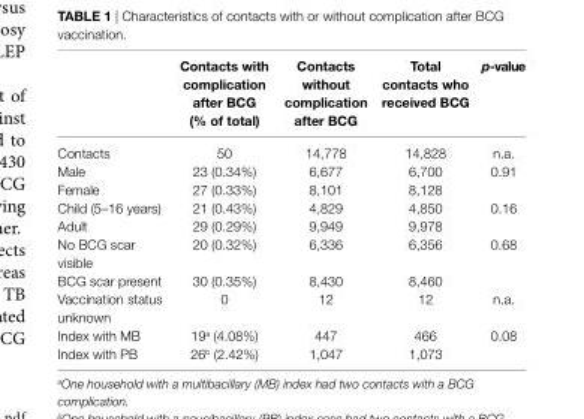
<table><thead><tr><td></td><td>Contacts with complication after BCG (% of total)</td><td>Contacts without complication after BCG</td><td>Total contacts who received BCG</td><td>p-value</td></tr></thead><tbody><tr><td>Contacts</td><td>50</td><td>14,778</td><td>14,828</td><td>n.a.</td></tr><tr><td>Male</td><td>23 (0.34%)</td><td>6,677</td><td>6,700</td><td rowspan="2">0.91</td></tr><tr><td>Female</td><td>27 (0.33%)</td><td>8,101</td><td>8,128</td></tr><tr><td>Child (5–16 years)</td><td>21 (0.43%)</td><td>4,829</td><td>4,850</td><td rowspan="2">0.16</td></tr><tr><td>Adult</td><td>29 (0.29%)</td><td>9,949</td><td>9,978</td></tr><tr><td>No BCG scar visible</td><td>20 (0.32%)</td><td>6,336</td><td>6,356</td><td rowspan="2">0.68</td></tr><tr><td>BCG scar present</td><td>30 (0.35%)</td><td>8,430</td><td>8,460</td></tr><tr><td>Vaccination status unknown</td><td>0</td><td>12</td><td>12</td><td>n.a.</td></tr><tr><td>Index with MB</td><td>19<sup>a</sup> (4.08%)</td><td>447</td><td>466</td><td rowspan="2">0.08</td></tr><tr><td>Index with PB</td><td>26<sup>b</sup> (2.42%)</td><td>1,047</td><td>1,073</td></tr></tbody></table>